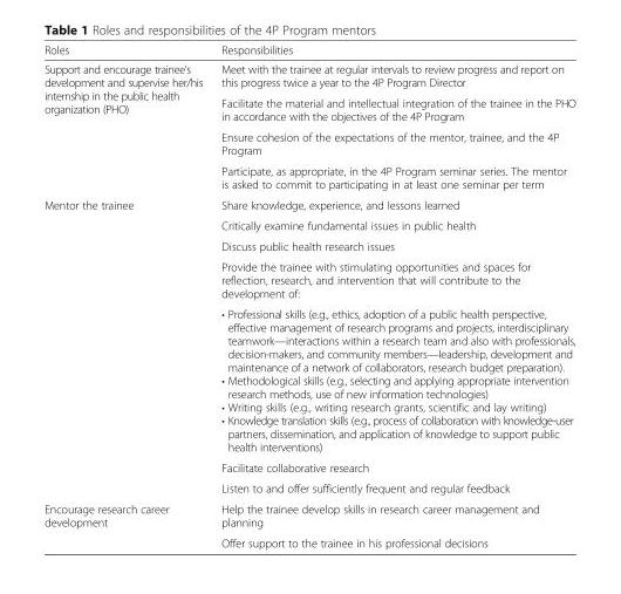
<table><thead><tr><td>Roles</td><td>Responsibilities</td></tr></thead><tbody><tr><td rowspan="4">Support and encourage trainee’s development and supervise her/his internship in the public health organization (PHO)</td><td>Meet with the trainee at regular intervals to review progress and report on this progress twice a year to the 4P Program Director</td></tr><tr><td>Facilitate the material and intellectual integration of the trainee in the PHO in accordance with the objectives of the 4P Program</td></tr><tr><td>Ensure cohesion of the expectations of the mentor, trainee, and the 4P Program</td></tr><tr><td>Participate, as appropriate, in the 4P Program seminar series. The mentor is asked to commit to participating in at least one seminar per term</td></tr><tr><td rowspan="7">Mentor the trainee</td><td>Share knowledge, experience, and lessons learned</td></tr><tr><td>Critically examine fundamental issues in public health</td></tr><tr><td>Discuss public health research issues</td></tr><tr><td>Provide the trainee with stimulating opportunities and spaces for reflection, research, and intervention that will contribute to the development of:</td></tr><tr><td>• Professional skills (e.g., ethics, adoption of a public health perspective, effective management of research programs and projects, interdisciplinary teamwork—interactions within a research team and also with professionals, decision-makers, and community members—leadership, development and maintenance of a network of collaborators, research budget preparation). • Methodological skills (e.g., selecting and applying appropriate intervention research methods, use of new information technologies) • Writing skills (e.g., writing research grants, scientific and lay writing) • Knowledge translation skills (e.g., process of collaboration with knowledge-user partners, dissemination, and application of knowledge to support public health interventions)</td></tr><tr><td>Facilitate collaborative research</td></tr><tr><td>Listen to and offer sufficiently frequent and regular feedback</td></tr><tr><td rowspan="2">Encourage research career development</td><td>Help the trainee develop skills in research career management and planning</td></tr><tr><td>Offer support to the trainee in his professional decisions</td></tr></tbody></table>